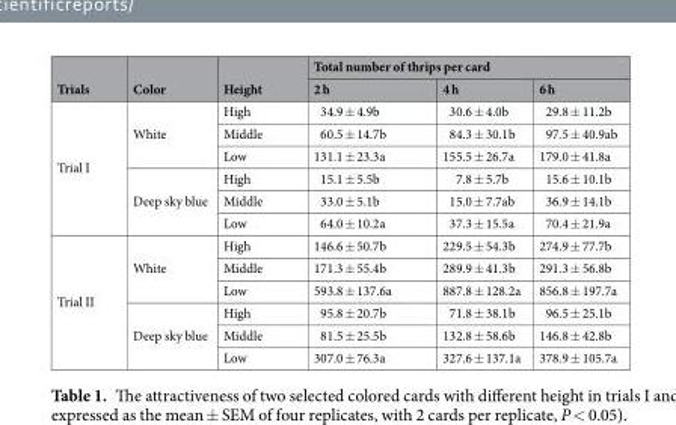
<table><thead><tr><td rowspan="2">Trials</td><td rowspan="2">Color</td><td rowspan="2">Height</td><td colspan="3">Total number of thrips per card</td></tr><tr><td>2 h</td><td>4 h</td><td>6 h</td></tr></thead><tbody><tr><td rowspan="6">Trial I</td><td rowspan="3">White</td><td>High</td><td>34.9 ± 4.9b</td><td>30.6 ± 4.0b</td><td>29.8 ± 11.2b</td></tr><tr><td>Middle</td><td>60.5 ± 14.7b</td><td>84.3 ± 30.1b</td><td>97.5 ± 40.9ab</td></tr><tr><td>Low</td><td>131.1 ± 23.3a</td><td>155.5 ± 26.7a</td><td>179.0 ± 41.8a</td></tr><tr><td rowspan="3">Deep sky blue</td><td>High</td><td>15.1 ± 5.5b</td><td>7.8 ± 5.7b</td><td>15.6 ± 10.1b</td></tr><tr><td>Middle</td><td>33.0 ± 5.1b</td><td>15.0 ± 7.7ab</td><td>36.9 ± 14.1b</td></tr><tr><td>Low</td><td>64.0 ± 10.2a</td><td>37.3 ± 15.5a</td><td>70.4 ± 21.9a</td></tr><tr><td rowspan="6">Trial II</td><td rowspan="3">White</td><td>High</td><td>146.6 ± 50.7b</td><td>229.5 ± 54.3b</td><td>274.9 ± 77.7b</td></tr><tr><td>Middle</td><td>171.3 ± 55.4b</td><td>289.9 ± 41.3b</td><td>291.3 ± 56.8b</td></tr><tr><td>Low</td><td>593.8 ± 137.6a</td><td>887.8 ± 128.2a</td><td>856.8 ± 197.7a</td></tr><tr><td rowspan="3">Deep sky blue</td><td>High</td><td>95.8 ± 20.7b</td><td>71.8 ± 38.1b</td><td>96.5 ± 25.1b</td></tr><tr><td>Middle</td><td>81.5 ± 25.5b</td><td>132.8 ± 58.6b</td><td>146.8 ± 42.8b</td></tr><tr><td>Low</td><td>307.0 ± 76.3a</td><td>327.6 ± 137.1a</td><td>378.9 ± 105.7a</td></tr></tbody></table>